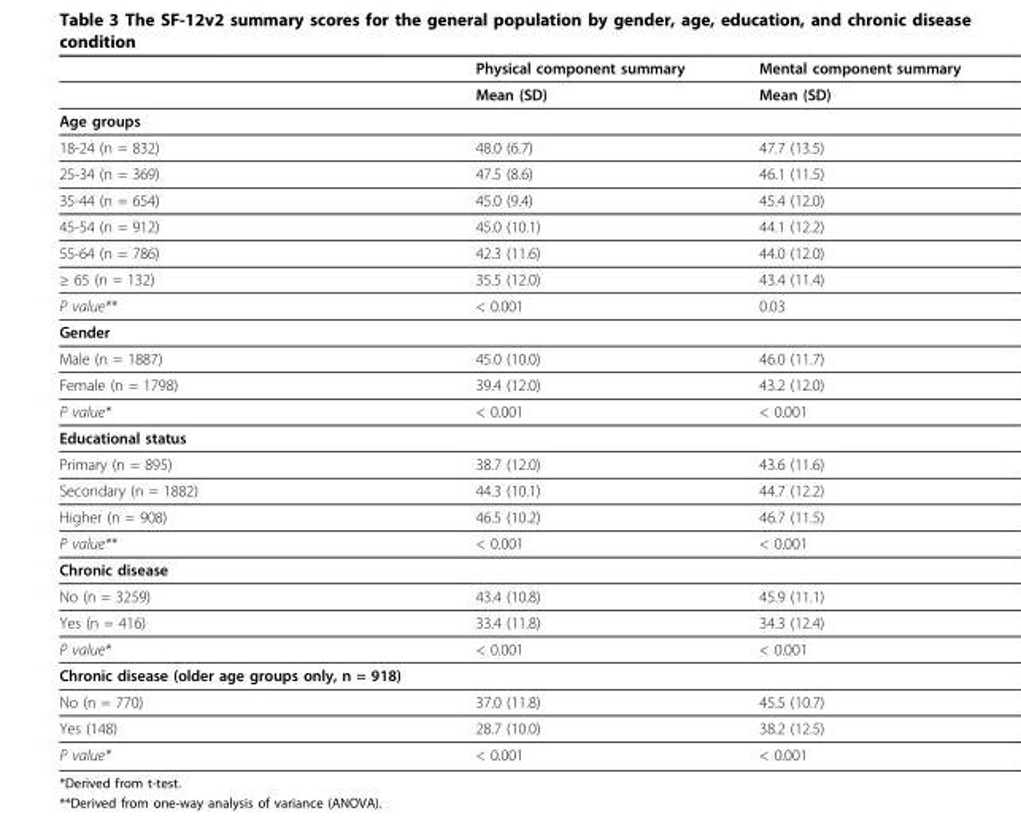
<table><thead><tr><td></td><td>Physical component summary</td><td>Mental component summary</td></tr></thead><tbody><tr><td></td><td>Mean (SD)</td><td>Mean (SD)</td></tr><tr><td colspan="3">Age groups</td></tr><tr><td>18-24 (n = 832)</td><td>48.0 (6.7)</td><td>47.7 (13.5)</td></tr><tr><td>25-34 (n = 369)</td><td>47.5 (8.6)</td><td>46.1 (11.5)</td></tr><tr><td>35-44 (n = 654)</td><td>45.0 (9.4)</td><td>45.4 (12.0)</td></tr><tr><td>45-54 (n = 912)</td><td>45.0 (10.1)</td><td>44.1 (12.2)</td></tr><tr><td>55-64 (n = 786)</td><td>42.3 (11.6)</td><td>44.0 (12.0)</td></tr><tr><td>≥ 65 (n = 132)</td><td>35.5 (12.0)</td><td>43.4 (11.4)</td></tr><tr><td>P value**</td><td>&lt; 0.001</td><td>0.03</td></tr><tr><td colspan="3">Gender</td></tr><tr><td>Male (n = 1887)</td><td>45.0 (10.0)</td><td>46.0 (11.7)</td></tr><tr><td>Female (n = 1798)</td><td>39.4 (12.0)</td><td>43.2 (12.0)</td></tr><tr><td>P value*</td><td>&lt; 0.001</td><td>&lt; 0.001</td></tr><tr><td colspan="3">Educational status</td></tr><tr><td>Primary (n = 895)</td><td>38.7 (12.0)</td><td>43.6 (11.6)</td></tr><tr><td>Secondary (n = 1882)</td><td>44.3 (10.1)</td><td>44.7 (12.2)</td></tr><tr><td>Higher (n = 908)</td><td>46.5 (10.2)</td><td>46.7 (11.5)</td></tr><tr><td>P value**</td><td>&lt; 0.001</td><td>&lt; 0.001</td></tr><tr><td colspan="3">Chronic disease</td></tr><tr><td>No (n = 3259)</td><td>43.4 (10.8)</td><td>45.9 (11.1)</td></tr><tr><td>Yes (n = 416)</td><td>33.4 (11.8)</td><td>34.3 (12.4)</td></tr><tr><td>P value*</td><td>&lt; 0.001</td><td>&lt; 0.001</td></tr><tr><td colspan="3">Chronic disease (older age groups only, n = 918)</td></tr><tr><td>No (n = 770)</td><td>37.0 (11.8)</td><td>45.5 (10.7)</td></tr><tr><td>Yes (148)</td><td>28.7 (10.0)</td><td>38.2 (12.5)</td></tr><tr><td>P value*</td><td>&lt; 0.001</td><td>&lt; 0.001</td></tr></tbody></table>